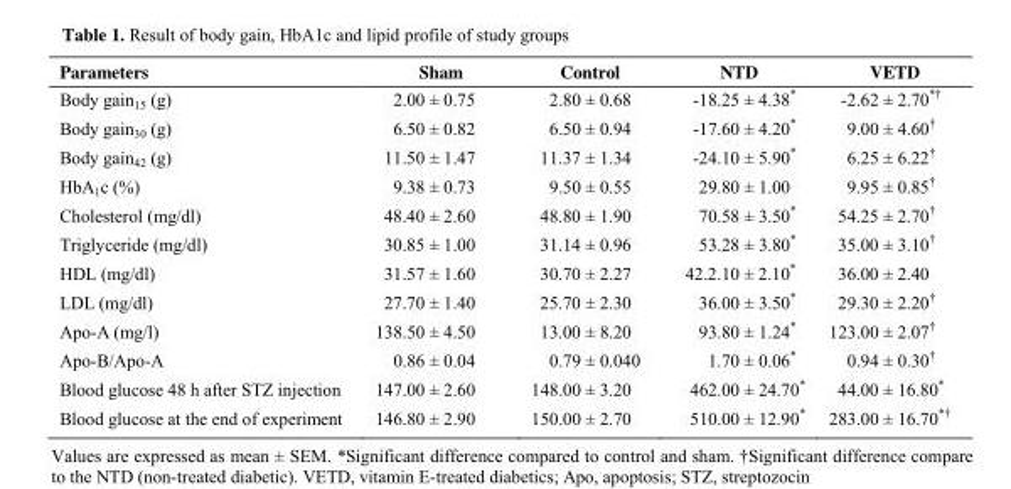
<table><thead><tr><td>Parameters</td><td>Sham</td><td>Control</td><td>NTD</td><td>VETD</td></tr></thead><tbody><tr><td>Body gain<sub>15</sub> (g)</td><td>2.00 ± 0.75</td><td>2.80 ± 0.68</td><td>-18.25 ± 4.38*</td><td>-2.62 ± 2.70*†</td></tr><tr><td>Body gain<sub>30</sub> (g)</td><td>6.50 ± 0.82</td><td>6.50 ± 0.94</td><td>-17.60 ± 4.20*</td><td>9.00 ± 4.60†</td></tr><tr><td>Body gain<sub>42</sub> (g)</td><td>11.50 ± 1.47</td><td>11.37 ± 1.34</td><td>-24.10 ± 5.90*</td><td>6.25 ± 6.22†</td></tr><tr><td>HbA<sub>1</sub>c (%)</td><td>9.38 ± 0.73</td><td>9.50 ± 0.55</td><td>29.80 ± 1.00</td><td>9.95 ± 0.85†</td></tr><tr><td>Cholesterol (mg/dl)</td><td>48.40 ± 2.60</td><td>48.80 ± 1.90</td><td>70.58 ± 3.50*</td><td>54.25 ± 2.70†</td></tr><tr><td>Triglyceride (mg/dl)</td><td>30.85 ± 1.00</td><td>31.14 ± 0.96</td><td>53.28 ± 3.80*</td><td>35.00 ± 3.10†</td></tr><tr><td>HDL (mg/dl)</td><td>31.57 ± 1.60</td><td>30.70 ± 2.27</td><td>42.2.10 ± 2.10*</td><td>36.00 ± 2.40</td></tr><tr><td>LDL (mg/dl)</td><td>27.70 ± 1.40</td><td>25.70 ± 2.30</td><td>36.00 ± 3.50*</td><td>29.30 ± 2.20†</td></tr><tr><td>Apo-A (mg/l)</td><td>138.50 ± 4.50</td><td>13.00 ± 8.20</td><td>93.80 ± 1.24*</td><td>123.00 ± 2.07†</td></tr><tr><td>Apo-B/Apo-A</td><td>0.86 ± 0.04</td><td>0.79 ± 0.040</td><td>1.70 ± 0.06*</td><td>0.94 ± 0.30†</td></tr><tr><td>Blood glucose 48 h after STZ injection</td><td>147.00 ± 2.60</td><td>148.00 ± 3.20</td><td>462.00 ± 24.70*</td><td>44.00 ± 16.80*</td></tr><tr><td>Blood glucose at the end of experiment</td><td>146.80 ± 2.90</td><td>150.00 ± 2.70</td><td>510.00 ± 12.90*</td><td>283.00 ± 16.70*†</td></tr></tbody></table>